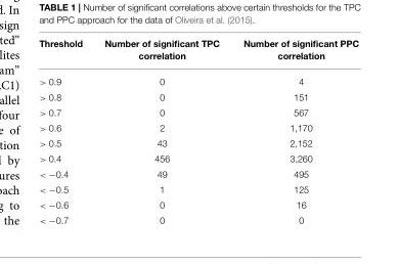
<table><thead><tr><td>Threshold</td><td>Number of significant TPC correlation</td><td>Number of significant PPC correlation</td></tr></thead><tbody><tr><td>&gt; 0.9</td><td>0</td><td>4</td></tr><tr><td>&gt; 0.8</td><td>0</td><td>151</td></tr><tr><td>&gt; 0.7</td><td>0</td><td>567</td></tr><tr><td>&gt; 0.6</td><td>2</td><td>1,170</td></tr><tr><td>&gt; 0.5</td><td>43</td><td>2,152</td></tr><tr><td>&gt; 0.4</td><td>456</td><td>3,260</td></tr><tr><td>&lt; −0.4</td><td>49</td><td>495</td></tr><tr><td>&lt; −0.5</td><td>1</td><td>125</td></tr><tr><td>&lt; −0.6</td><td>0</td><td>16</td></tr><tr><td>&lt; −0.7</td><td>0</td><td>0</td></tr></tbody></table>